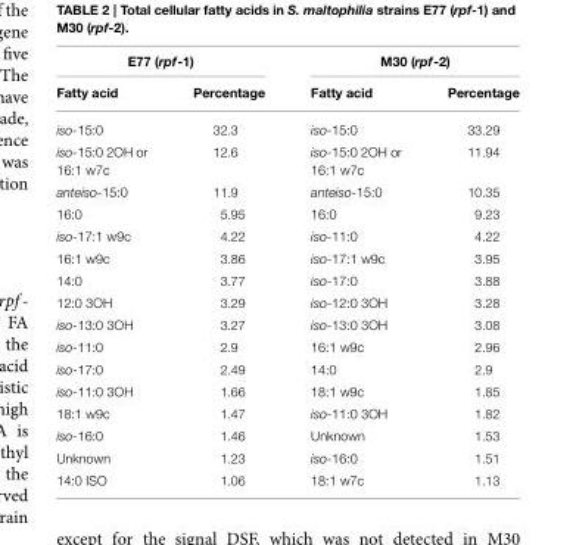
<table><thead><tr><td colspan="2">E77 (rpf-1)</td><td colspan="2">M30 (rpf-2)</td></tr><tr><td>Fatty acid</td><td>Percentage</td><td>Fatty acid</td><td>Percentage</td></tr></thead><tbody><tr><td>iso-15:0</td><td>32.3</td><td>iso-15:0</td><td>33.29</td></tr><tr><td>iso-15:0 2OH or 16:1 w7c</td><td>12.6</td><td>iso-15:0 2OH or 16:1 w7c</td><td>11.94</td></tr><tr><td>anteiso-15:0</td><td>11.9</td><td>anteiso-15:0</td><td>10.35</td></tr><tr><td>16:0</td><td>5.95</td><td>16:0</td><td>9.23</td></tr><tr><td>iso-17:1 w9c</td><td>4.22</td><td>iso-11:0</td><td>4.22</td></tr><tr><td>16:1 w9c</td><td>3.86</td><td>iso-17:1 w9c</td><td>3.95</td></tr><tr><td>14:0</td><td>3.77</td><td>iso-17:0</td><td>3.88</td></tr><tr><td>12:0 3OH</td><td>3.29</td><td>iso-12:0 3OH</td><td>3.28</td></tr><tr><td>iso-13:0 3OH</td><td>3.27</td><td>iso-13:0 3OH</td><td>3.08</td></tr><tr><td>iso-11:0</td><td>2.9</td><td>16:1 w9c</td><td>2.96</td></tr><tr><td>iso-17:0</td><td>2.49</td><td>14:0</td><td>2.9</td></tr><tr><td>iso-11:0 3OH</td><td>1.66</td><td>18:1 w9c</td><td>1.85</td></tr><tr><td>18:1 w9c</td><td>1.47</td><td>iso-11:0 3OH</td><td>1.82</td></tr><tr><td>iso-16:0</td><td>1.46</td><td>Unknown</td><td>1.53</td></tr><tr><td>Unknown</td><td>1.23</td><td>iso-16:0</td><td>1.51</td></tr><tr><td>14:0 ISO</td><td>1.06</td><td>18:1 w7c</td><td>1.13</td></tr></tbody></table>